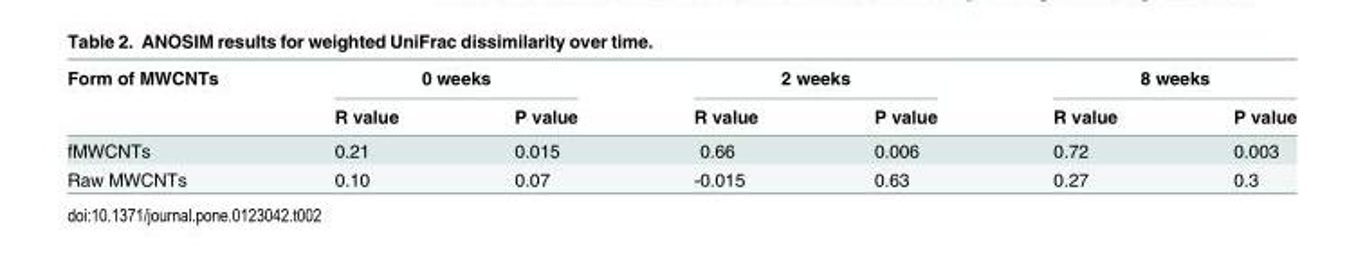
<table><thead><tr><td rowspan="2">Form of MWCNTs</td><td colspan="2">0 weeks</td><td colspan="2">2 weeks</td><td colspan="2">8 weeks</td></tr><tr><td>R value</td><td>P value</td><td>R value</td><td>P value</td><td>R value</td><td>P value</td></tr></thead><tbody><tr><td>fMWCNTs</td><td>0.21</td><td>0.015</td><td>0.66</td><td>0.006</td><td>0.72</td><td>0.003</td></tr><tr><td>Raw MWCNTs</td><td>0.10</td><td>0.07</td><td>-0.015</td><td>0.63</td><td>0.27</td><td>0.3</td></tr></tbody></table>